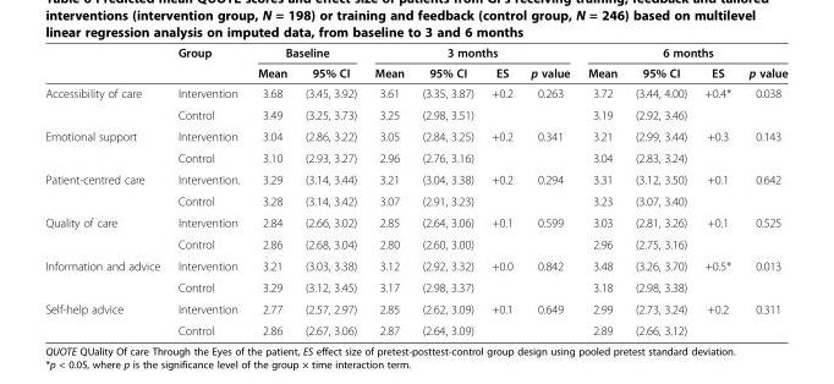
<table><thead><tr><td rowspan="2"></td><td rowspan="2">Group</td><td colspan="2">Baseline</td><td colspan="4">3 months</td><td colspan="4">6 months</td></tr><tr><td>Mean</td><td>95% CI</td><td>Mean</td><td>95% CI</td><td>ES</td><td>p value</td><td>Mean</td><td>95% CI</td><td>ES</td><td>p value</td></tr></thead><tbody><tr><td rowspan="2">Accessibility of care</td><td>Intervention</td><td>3.68</td><td>(3.45, 3.92)</td><td>3.61</td><td>(3.35, 3.87)</td><td>+0.2</td><td>0.263</td><td>3.72</td><td>(3.44, 4.00)</td><td>+0.4*</td><td>0.038</td></tr><tr><td>Control</td><td>3.49</td><td>(3.25, 3.73)</td><td>3.25</td><td>(2.98, 3.51)</td><td></td><td></td><td>3.19</td><td>(2.92, 3.46)</td><td></td><td></td></tr><tr><td rowspan="2">Emotional support</td><td>Intervention</td><td>3.04</td><td>(2.86, 3.22)</td><td>3.05</td><td>(2.84, 3.25)</td><td>+0.2</td><td>0.341</td><td>3.21</td><td>(2.99, 3.44)</td><td>+0.3</td><td>0.143</td></tr><tr><td>Control</td><td>3.10</td><td>(2.93, 3.27)</td><td>2.96</td><td>(2.76, 3.16)</td><td></td><td></td><td>3.04</td><td>(2.83, 3.24)</td><td></td><td></td></tr><tr><td rowspan="2">Patient-centred care</td><td>Intervention.</td><td>3.29</td><td>(3.14, 3.44)</td><td>3.21</td><td>(3.04, 3.38)</td><td>+0.2</td><td>0.294</td><td>3.31</td><td>(3.12, 3.50)</td><td>+0.1</td><td>0.642</td></tr><tr><td>Control</td><td>3.28</td><td>(3.14, 3.42)</td><td>3.07</td><td>(2.91, 3.23)</td><td></td><td></td><td>3.23</td><td>(3.07, 3.40)</td><td></td><td></td></tr><tr><td rowspan="2">Quality of care</td><td>Intervention</td><td>2.84</td><td>(2.66, 3.02)</td><td>2.85</td><td>(2.64, 3.06)</td><td>+0.1</td><td>0.599</td><td>3.03</td><td>(2.81, 3.26)</td><td>+0.1</td><td>0.525</td></tr><tr><td>Control</td><td>2.86</td><td>(2.68, 3.04)</td><td>2.80</td><td>(2.60, 3.00)</td><td></td><td></td><td>2.96</td><td>(2.75, 3.16)</td><td></td><td></td></tr><tr><td rowspan="2">Information and advice</td><td>Intervention</td><td>3.21</td><td>(3.03, 3.38)</td><td>3.12</td><td>(2.92, 3.32)</td><td>+0.0</td><td>0.842</td><td>3.48</td><td>(3.26, 3.70)</td><td>+0.5*</td><td>0.013</td></tr><tr><td>Control</td><td>3.29</td><td>(3.12, 3.45)</td><td>3.17</td><td>(2.98, 3.37)</td><td></td><td></td><td>3.18</td><td>(2.98, 3.38)</td><td></td><td></td></tr><tr><td rowspan="2">Self-help advice</td><td>Intervention</td><td>2.77</td><td>(2.57, 2.97)</td><td>2.85</td><td>(2.62, 3.09)</td><td>+0.1</td><td>0.649</td><td>2.99</td><td>(2.73, 3.24)</td><td>+0.2</td><td>0.311</td></tr><tr><td>Control</td><td>2.86</td><td>(2.67, 3.06)</td><td>2.87</td><td>(2.64, 3.09)</td><td></td><td></td><td>2.89</td><td>(2.66, 3.12)</td><td></td><td></td></tr></tbody></table>